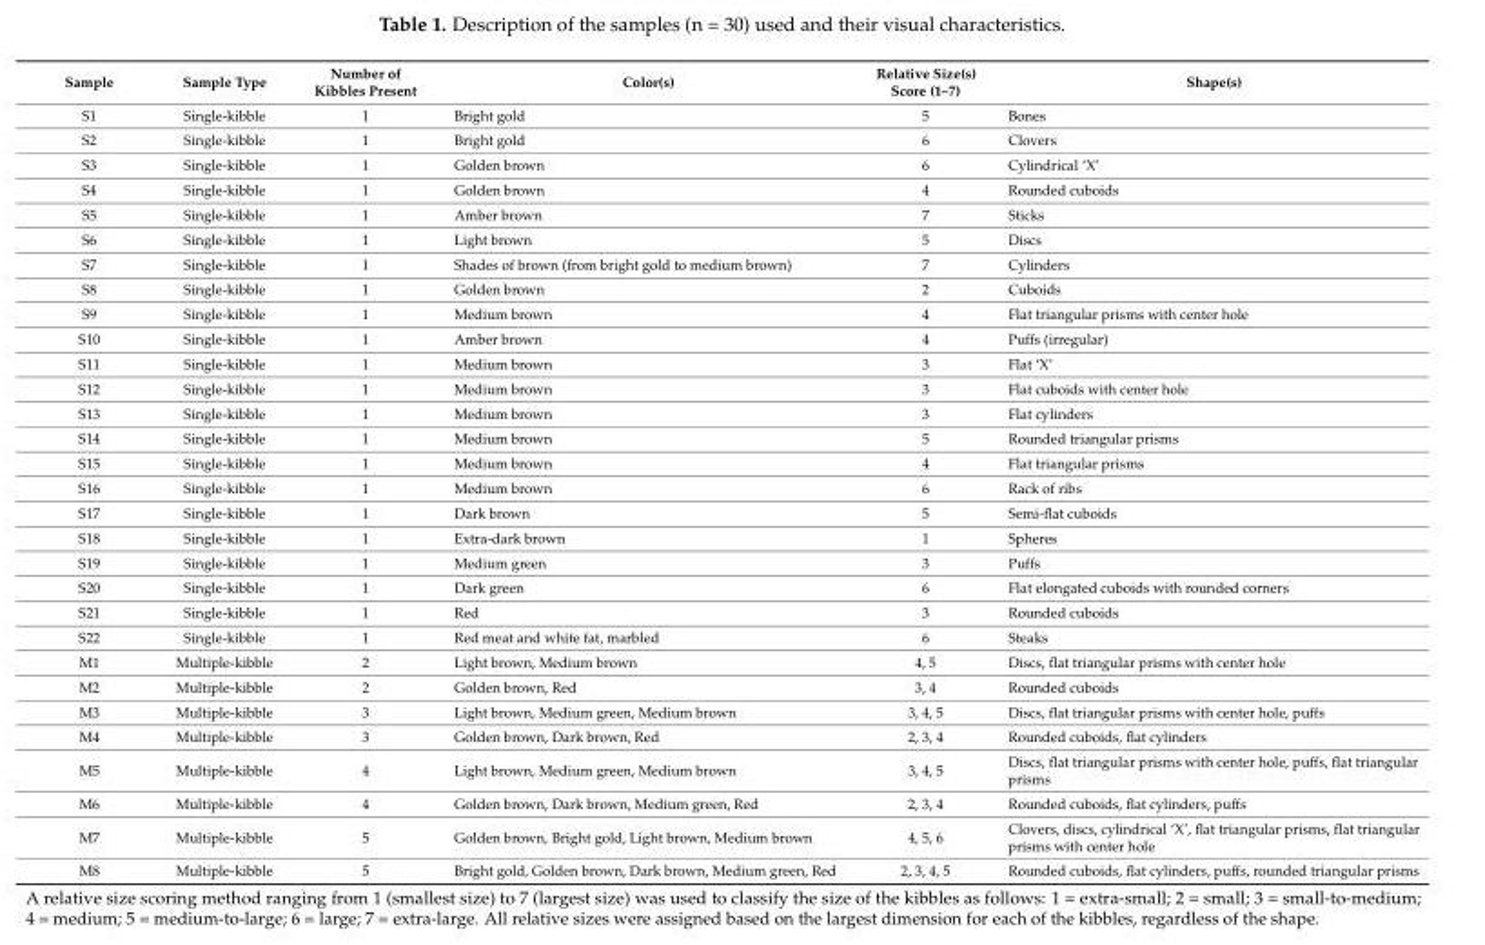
<table><thead><tr><td>Sample</td><td>Sample Type</td><td>Number of Kibbles Present</td><td>Color(s)</td><td>Relative Size(s) Score (1–7)</td><td>Shape(s)</td></tr></thead><tbody><tr><td>S1</td><td>Single-kibble</td><td>1</td><td>Bright gold</td><td>5</td><td>Bones</td></tr><tr><td>S2</td><td>Single-kibble</td><td>1</td><td>Bright gold</td><td>6</td><td>Clovers</td></tr><tr><td>S3</td><td>Single-kibble</td><td>1</td><td>Golden brown</td><td>6</td><td>Cylindrical ‘X’</td></tr><tr><td>S4</td><td>Single-kibble</td><td>1</td><td>Golden brown</td><td>4</td><td>Rounded cuboids</td></tr><tr><td>S5</td><td>Single-kibble</td><td>1</td><td>Amber brown</td><td>7</td><td>Sticks</td></tr><tr><td>S6</td><td>Single-kibble</td><td>1</td><td>Light brown</td><td>5</td><td>Discs</td></tr><tr><td>S7</td><td>Single-kibble</td><td>1</td><td>Shades of brown (from bright gold to medium brown)</td><td>7</td><td>Cylinders</td></tr><tr><td>S8</td><td>Single-kibble</td><td>1</td><td>Golden brown</td><td>2</td><td>Cuboids</td></tr><tr><td>S9</td><td>Single-kibble</td><td>1</td><td>Medium brown</td><td>4</td><td>Flat triangular prisms with center hole</td></tr><tr><td>S10</td><td>Single-kibble</td><td>1</td><td>Amber brown</td><td>4</td><td>Puffs (irregular)</td></tr><tr><td>S11</td><td>Single-kibble</td><td>1</td><td>Medium brown</td><td>3</td><td>Flat ‘X’</td></tr><tr><td>S12</td><td>Single-kibble</td><td>1</td><td>Medium brown</td><td>3</td><td>Flat cuboids with center hole</td></tr><tr><td>S13</td><td>Single-kibble</td><td>1</td><td>Medium brown</td><td>3</td><td>Flat cylinders</td></tr><tr><td>S14</td><td>Single-kibble</td><td>1</td><td>Medium brown</td><td>5</td><td>Rounded triangular prisms</td></tr><tr><td>S15</td><td>Single-kibble</td><td>1</td><td>Medium brown</td><td>4</td><td>Flat triangular prisms</td></tr><tr><td>S16</td><td>Single-kibble</td><td>1</td><td>Medium brown</td><td>6</td><td>Rack of ribs</td></tr><tr><td>S17</td><td>Single-kibble</td><td>1</td><td>Dark brown</td><td>5</td><td>Semi-flat cuboids</td></tr><tr><td>S18</td><td>Single-kibble</td><td>1</td><td>Extra-dark brown</td><td>1</td><td>Spheres</td></tr><tr><td>S19</td><td>Single-kibble</td><td>1</td><td>Medium green</td><td>3</td><td>Puffs</td></tr><tr><td>S20</td><td>Single-kibble</td><td>1</td><td>Dark green</td><td>6</td><td>Flat elongated cuboids with rounded corners</td></tr><tr><td>S21</td><td>Single-kibble</td><td>1</td><td>Red</td><td>3</td><td>Rounded cuboids</td></tr><tr><td>S22</td><td>Single-kibble</td><td>1</td><td>Red meat and white fat, marbled</td><td>6</td><td>Steaks</td></tr><tr><td>M1</td><td>Multiple-kibble</td><td>2</td><td>Light brown, Medium brown</td><td>4, 5</td><td>Discs, flat triangular prisms with center hole</td></tr><tr><td>M2</td><td>Multiple-kibble</td><td>2</td><td>Golden brown, Red</td><td>3, 4</td><td>Rounded cuboids</td></tr><tr><td>M3</td><td>Multiple-kibble</td><td>3</td><td>Light brown, Medium green, Medium brown</td><td>3, 4, 5</td><td>Discs, flat triangular prisms with center hole, puffs</td></tr><tr><td>M4</td><td>Multiple-kibble</td><td>3</td><td>Golden brown, Dark brown, Red</td><td>2, 3, 4</td><td>Rounded cuboids, flat cylinders</td></tr><tr><td>M5</td><td>Multiple-kibble</td><td>4</td><td>Light brown, Medium green, Medium brown</td><td>3, 4, 5</td><td>Discs, flat triangular prisms with center hole, puffs, flat triangular prisms</td></tr><tr><td>M6</td><td>Multiple-kibble</td><td>4</td><td>Golden brown, Dark brown, Medium green, Red</td><td>2, 3, 4</td><td>Rounded cuboids, flat cylinders, puffs</td></tr><tr><td>M7</td><td>Multiple-kibble</td><td>5</td><td>Golden brown, Bright gold, Light brown, Medium brown</td><td>4, 5, 6</td><td>Clovers, discs, cylindrical ‘X’, flat triangular prisms, flat triangular prisms with center hole</td></tr><tr><td>M8</td><td>Multiple-kibble</td><td>5</td><td>Bright gold, Golden brown, Dark brown, Medium green, Red</td><td>2, 3, 4, 5</td><td>Rounded cuboids, flat cylinders, puffs, rounded triangular prisms</td></tr></tbody></table>